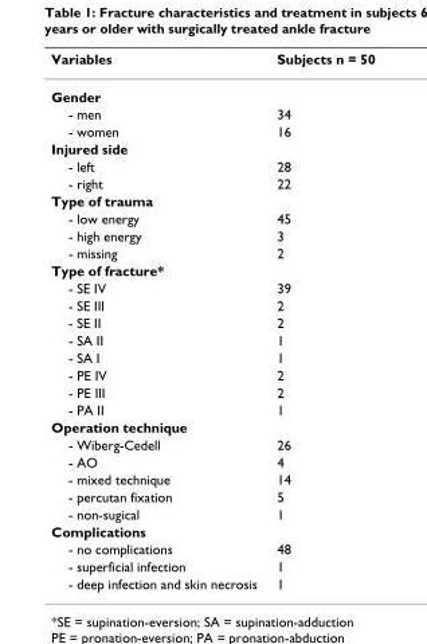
<table><thead><tr><td>Variables</td><td>Subjects n = 50</td></tr></thead><tbody><tr><td colspan="2">Gender</td></tr><tr><td>- men</td><td>34</td></tr><tr><td>- women</td><td>16</td></tr><tr><td colspan="2">Injured side</td></tr><tr><td>- left</td><td>28</td></tr><tr><td>- right</td><td>22</td></tr><tr><td colspan="2">Type of trauma</td></tr><tr><td>- low energy</td><td>45</td></tr><tr><td>- high energy</td><td>3</td></tr><tr><td>- missing</td><td>2</td></tr><tr><td colspan="2">Type of fracture*</td></tr><tr><td>- SE IV</td><td>39</td></tr><tr><td>- SE III</td><td>2</td></tr><tr><td>- SE II</td><td>2</td></tr><tr><td>- SA II</td><td>1</td></tr><tr><td>- SA I</td><td>1</td></tr><tr><td>- PE IV</td><td>2</td></tr><tr><td>- PE III</td><td>2</td></tr><tr><td>- PA II</td><td>1</td></tr><tr><td colspan="2">Operation technique</td></tr><tr><td>- Wiberg-Cedell</td><td>26</td></tr><tr><td>- AO</td><td>4</td></tr><tr><td>- mixed technique</td><td>14</td></tr><tr><td>- percutan fixation</td><td>5</td></tr><tr><td>- non-sugical</td><td>1</td></tr><tr><td colspan="2">Complications</td></tr><tr><td>- no complications</td><td>48</td></tr><tr><td>- superficial infection</td><td>1</td></tr><tr><td>- deep infection and skin necrosis</td><td>1</td></tr></tbody></table>